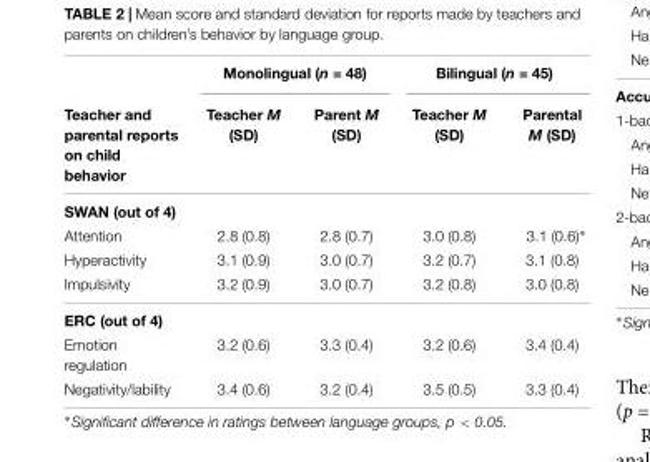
<table><thead><tr><td rowspan="2">Teacher and parental reports on child behavior</td><td colspan="2">Monolingual (n = 48)</td><td colspan="2">Bilingual (n = 45)</td></tr><tr><td>Teacher M (SD)</td><td>Parent M (SD)</td><td>Teacher M (SD)</td><td>Parental M (SD)</td></tr></thead><tbody><tr><td colspan="5">SWAN (out of 4)</td></tr><tr><td>Attention</td><td>2.8 (0.8)</td><td>2.8 (0.7)</td><td>3.0 (0.8)</td><td>3.1 (0.6)∗</td></tr><tr><td>Hyperactivity</td><td>3.1 (0.9)</td><td>3.0 (0.7)</td><td>3.2 (0.7)</td><td>3.1 (0.8)</td></tr><tr><td>Impulsivity</td><td>3.2 (0.9)</td><td>3.0 (0.7)</td><td>3.2 (0.8)</td><td>3.0 (0.8)</td></tr><tr><td colspan="5">ERC (out of 4)</td></tr><tr><td>Emotion regulation</td><td>3.2 (0.6)</td><td>3.3 (0.4)</td><td>3.2 (0.6)</td><td>3.4 (0.4)</td></tr><tr><td>Negativity/lability</td><td>3.4 (0.6)</td><td>3.2 (0.4)</td><td>3.5 (0.5)</td><td>3.3 (0.4)</td></tr></tbody></table>